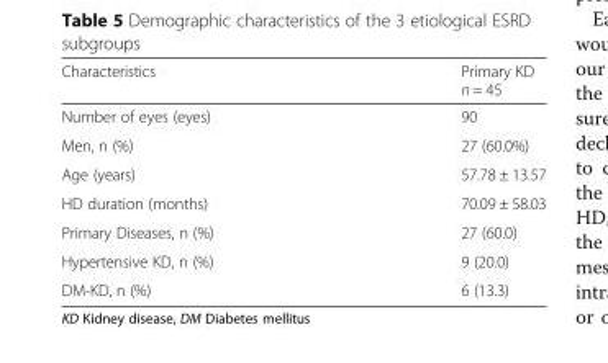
<table><thead><tr><td>Characteristics</td><td>Primary KD n = 45</td></tr></thead><tbody><tr><td>Number of eyes (eyes)</td><td>90</td></tr><tr><td>Men, n (%)</td><td>27 (60.0%)</td></tr><tr><td>Age (years)</td><td>57.78 ± 13.57</td></tr><tr><td>HD duration (months)</td><td>70.09 ± 58.03</td></tr><tr><td>Primary Diseases, n (%)</td><td>27 (60.0)</td></tr><tr><td>Hypertensive KD, n (%)</td><td>9 (20.0)</td></tr><tr><td>DM-KD, n (%)</td><td>6 (13.3)</td></tr></tbody></table>